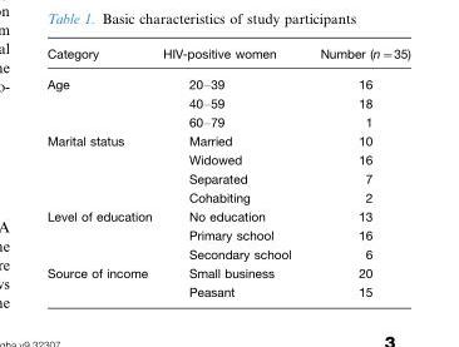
<table><thead><tr><td>Category</td><td>HIV-positive women</td><td>Number (n=35)</td></tr></thead><tbody><tr><td rowspan="3">Age</td><td>20–39</td><td>16</td></tr><tr><td>40–59</td><td>18</td></tr><tr><td>60–79</td><td>1</td></tr><tr><td rowspan="4">Marital status</td><td>Married</td><td>10</td></tr><tr><td>Widowed</td><td>16</td></tr><tr><td>Separated</td><td>7</td></tr><tr><td>Cohabiting</td><td>2</td></tr><tr><td rowspan="3">Level of education</td><td>No education</td><td>13</td></tr><tr><td>Primary school</td><td>16</td></tr><tr><td>Secondary school</td><td>6</td></tr><tr><td rowspan="2">Source of income</td><td>Small business</td><td>20</td></tr><tr><td>Peasant</td><td>15</td></tr></tbody></table>